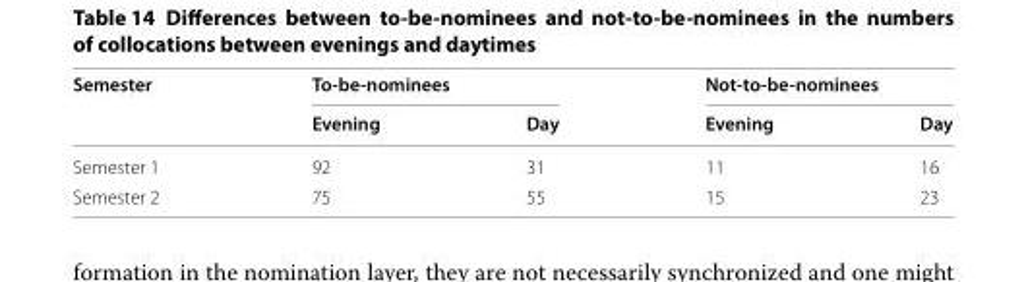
<table><thead><tr><td rowspan="2">Semester</td><td colspan="2">To-be-nominees</td><td colspan="2">Not-to-be-nominees</td></tr><tr><td>Evening</td><td>Day</td><td>Evening</td><td>Day</td></tr></thead><tbody><tr><td>Semester 1</td><td>92</td><td>31</td><td>11</td><td>16</td></tr><tr><td>Semester 2</td><td>75</td><td>55</td><td>15</td><td>23</td></tr></tbody></table>